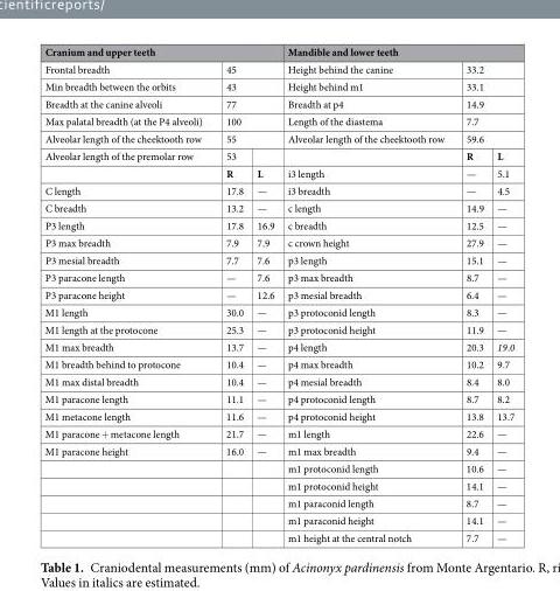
<table><thead><tr><td colspan="3">Cranium and upper teeth</td><td colspan="3">Mandible and lower teeth</td></tr></thead><tbody><tr><td>Frontal breadth</td><td colspan="2">45</td><td>Height behind the canine</td><td colspan="2">33.2</td></tr><tr><td>Min breadth between the orbits</td><td colspan="2">43</td><td>Height behind m1</td><td colspan="2">33.1</td></tr><tr><td>Breadth at the canine alveoli</td><td colspan="2">77</td><td>Breadth at p4</td><td colspan="2">14.9</td></tr><tr><td>Max palatal breadth (at the P4 alveoli)</td><td colspan="2">100</td><td>Length of the diastema</td><td colspan="2">7.7</td></tr><tr><td>Alveolar length of the cheektooth row</td><td colspan="2">55</td><td>Alveolar length of the cheektooth row</td><td colspan="2">59.6</td></tr><tr><td rowspan="2">Alveolar length of the premolar row</td><td>53</td><td></td><td></td><td>R</td><td>L</td></tr><tr><td>R</td><td>L</td><td>i3 length</td><td>—</td><td>5.1</td></tr><tr><td>C length</td><td>17.8</td><td>—</td><td>i3 breadth</td><td>—</td><td>4.5</td></tr><tr><td>C breadth</td><td>13.2</td><td>—</td><td>c length</td><td>14.9</td><td>—</td></tr><tr><td>P3 length</td><td>17.8</td><td>16.9</td><td>c breadth</td><td>12.5</td><td>—</td></tr><tr><td>P3 max breadth</td><td>7.9</td><td>7.9</td><td>c crown height</td><td>27.9</td><td>—</td></tr><tr><td>P3 mesial breadth</td><td>7.7</td><td>7.6</td><td>p3 length</td><td>15.1</td><td>—</td></tr><tr><td>P3 paracone length</td><td>—</td><td>7.6</td><td>p3 max breadth</td><td>8.7</td><td>—</td></tr><tr><td>P3 paracone height</td><td>—</td><td>12.6</td><td>p3 mesial breadth</td><td>6.4</td><td>—</td></tr><tr><td>M1 length</td><td>30.0</td><td>—</td><td>p3 protoconid length</td><td>8.3</td><td>—</td></tr><tr><td>M1 length at the protocone</td><td>25.3</td><td>—</td><td>p3 protoconid height</td><td>11.9</td><td>—</td></tr><tr><td>M1 max breadth</td><td>13.7</td><td>—</td><td>p4 length</td><td>20.3</td><td>19.0</td></tr><tr><td>M1 breadth behind to protocone</td><td>10.4</td><td>—</td><td>p4 max breadth</td><td>10.2</td><td>9.7</td></tr><tr><td>M1 max distal breadth</td><td>10.4</td><td>—</td><td>p4 mesial breadth</td><td>8.4</td><td>8.0</td></tr><tr><td>M1 paracone length</td><td>11.1</td><td>—</td><td>p4 protoconid length</td><td>8.7</td><td>8.2</td></tr><tr><td>M1 metacone length</td><td>11.6</td><td>—</td><td>p4 protoconid height</td><td>13.8</td><td>13.7</td></tr><tr><td>M1 paracone + metacone length</td><td>21.7</td><td>—</td><td>m1 length</td><td>22.6</td><td>—</td></tr><tr><td rowspan="6">M1 paracone height</td><td>16.0</td><td>—</td><td>m1 max breadth</td><td>9.4</td><td>—</td></tr><tr><td></td><td></td><td>m1 protoconid length</td><td>10.6</td><td>—</td></tr><tr><td></td><td></td><td>m1 protoconid height</td><td>14.1</td><td>—</td></tr><tr><td></td><td></td><td>m1 paraconid length</td><td>8.7</td><td>—</td></tr><tr><td></td><td></td><td>m1 paraconid height</td><td>14.1</td><td>—</td></tr><tr><td></td><td></td><td>m1 height at the central notch</td><td>7.7</td><td>—</td></tr></tbody></table>